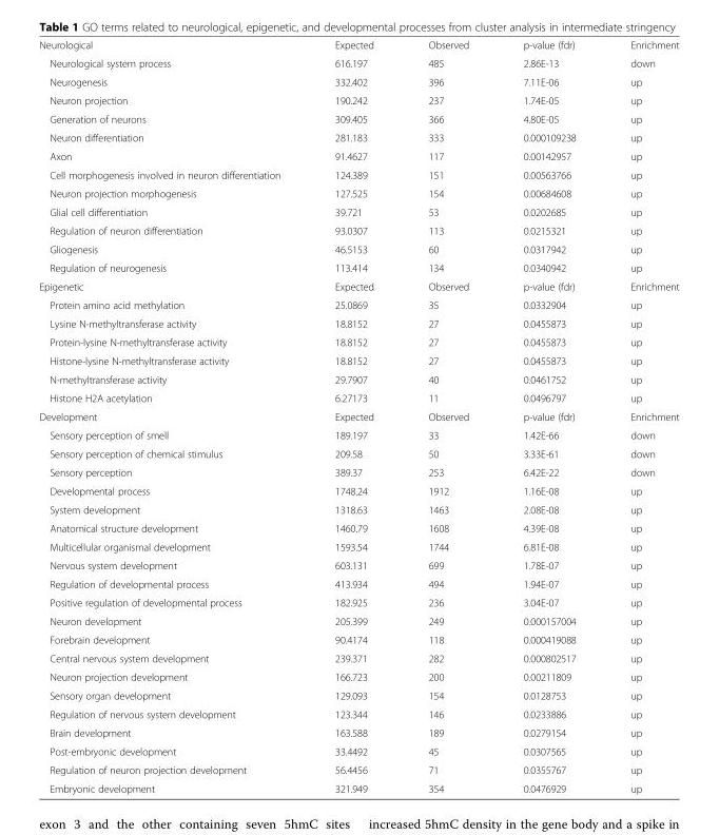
<table><tbody><tr><td>Neurological</td><td>Expected</td><td>Observed</td><td>p-value (fdr)</td><td>Enrichment</td></tr><tr><td>Neurological system process</td><td>616.197</td><td>485</td><td>2.86E-13</td><td>down</td></tr><tr><td>Neurogenesis</td><td>332.402</td><td>396</td><td>7.11E-06</td><td>up</td></tr><tr><td>Neuron projection</td><td>190.242</td><td>237</td><td>1.74E-05</td><td>up</td></tr><tr><td>Generation of neurons</td><td>309.405</td><td>366</td><td>4.80E-05</td><td>up</td></tr><tr><td>Neuron differentiation</td><td>281.183</td><td>333</td><td>0.000109238</td><td>up</td></tr><tr><td>Axon</td><td>91.4627</td><td>117</td><td>0.00142957</td><td>up</td></tr><tr><td>Cell morphogenesis involved in neuron differentiation</td><td>124.389</td><td>151</td><td>0.00563766</td><td>up</td></tr><tr><td>Neuron projection morphogenesis</td><td>127.525</td><td>154</td><td>0.00684608</td><td>up</td></tr><tr><td>Glial cell differentiation</td><td>39.721</td><td>53</td><td>0.0202685</td><td>up</td></tr><tr><td>Regulation of neuron differentiation</td><td>93.0307</td><td>113</td><td>0.0215321</td><td>up</td></tr><tr><td>Gliogenesis</td><td>46.5153</td><td>60</td><td>0.0317942</td><td>up</td></tr><tr><td>Regulation of neurogenesis</td><td>113.414</td><td>134</td><td>0.0340942</td><td>up</td></tr><tr><td>Epigenetic</td><td>Expected</td><td>Observed</td><td>p-value (fdr)</td><td>Enrichment</td></tr><tr><td>Protein amino acid methylation</td><td>25.0869</td><td>35</td><td>0.0332904</td><td>up</td></tr><tr><td>Lysine N-methyltransferase activity</td><td>18.8152</td><td>27</td><td>0.0455873</td><td>up</td></tr><tr><td>Protein-lysine N-methyltransferase activity</td><td>18.8152</td><td>27</td><td>0.0455873</td><td>up</td></tr><tr><td>Histone-lysine N-methyltransferase activity</td><td>18.8152</td><td>27</td><td>0.0455873</td><td>up</td></tr><tr><td>N-methyltransferase activity</td><td>29.7907</td><td>40</td><td>0.0461752</td><td>up</td></tr><tr><td>Histone H2A acetylation</td><td>6.27173</td><td>11</td><td>0.0496797</td><td>up</td></tr><tr><td>Development</td><td>Expected</td><td>Observed</td><td>p-value (fdr)</td><td>Enrichment</td></tr><tr><td>Sensory perception of smell</td><td>189.197</td><td>33</td><td>1.42E-66</td><td>down</td></tr><tr><td>Sensory perception of chemical stimulus</td><td>209.58</td><td>50</td><td>3.33E-61</td><td>down</td></tr><tr><td>Sensory perception</td><td>389.37</td><td>253</td><td>6.42E-22</td><td>down</td></tr><tr><td>Developmental process</td><td>1748.24</td><td>1912</td><td>1.16E-08</td><td>up</td></tr><tr><td>System development</td><td>1318.63</td><td>1463</td><td>2.08E-08</td><td>up</td></tr><tr><td>Anatomical structure development</td><td>1460.79</td><td>1608</td><td>4.39E-08</td><td>up</td></tr><tr><td>Multicellular organismal development</td><td>1593.54</td><td>1744</td><td>6.81E-08</td><td>up</td></tr><tr><td>Nervous system development</td><td>603.131</td><td>699</td><td>1.78E-07</td><td>up</td></tr><tr><td>Regulation of developmental process</td><td>413.934</td><td>494</td><td>1.94E-07</td><td>up</td></tr><tr><td>Positive regulation of developmental process</td><td>182.925</td><td>236</td><td>3.04E-07</td><td>up</td></tr><tr><td>Neuron development</td><td>205.399</td><td>249</td><td>0.000157004</td><td>up</td></tr><tr><td>Forebrain development</td><td>90.4174</td><td>118</td><td>0.000419088</td><td>up</td></tr><tr><td>Central nervous system development</td><td>239.371</td><td>282</td><td>0.000802517</td><td>up</td></tr><tr><td>Neuron projection development</td><td>166.723</td><td>200</td><td>0.00211809</td><td>up</td></tr><tr><td>Sensory organ development</td><td>129.093</td><td>154</td><td>0.0128753</td><td>up</td></tr><tr><td>Regulation of nervous system development</td><td>123.344</td><td>146</td><td>0.0233886</td><td>up</td></tr><tr><td>Brain development</td><td>163.588</td><td>189</td><td>0.0279154</td><td>up</td></tr><tr><td>Post-embryonic development</td><td>33.4492</td><td>45</td><td>0.0307565</td><td>up</td></tr><tr><td>Regulation of neuron projection development</td><td>56.4456</td><td>71</td><td>0.0355767</td><td>up</td></tr><tr><td>Embryonic development</td><td>321.949</td><td>354</td><td>0.0476929</td><td>up</td></tr></tbody></table>